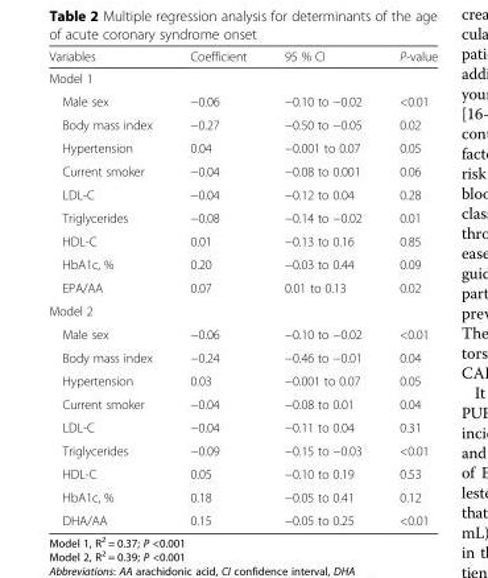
<table><thead><tr><td>Variables</td><td>Coefficient</td><td>95 % CI</td><td>P-value</td></tr></thead><tbody><tr><td colspan="4">Model 1</td></tr><tr><td>Male sex</td><td>−0.06</td><td>−0.10 to −0.02</td><td>&lt;0.01</td></tr><tr><td>Body mass index</td><td>−0.27</td><td>−0.50 to −0.05</td><td>0.02</td></tr><tr><td>Hypertension</td><td>0.04</td><td>−0.001 to 0.07</td><td>0.05</td></tr><tr><td>Current smoker</td><td>−0.04</td><td>−0.08 to 0.001</td><td>0.06</td></tr><tr><td>LDL-C</td><td>−0.04</td><td>−0.12 to 0.04</td><td>0.28</td></tr><tr><td>Triglycerides</td><td>−0.08</td><td>−0.14 to −0.02</td><td>0.01</td></tr><tr><td>HDL-C</td><td>0.01</td><td>−0.13 to 0.16</td><td>0.85</td></tr><tr><td>HbA1c, %</td><td>0.20</td><td>−0.03 to 0.44</td><td>0.09</td></tr><tr><td>EPA/AA</td><td>0.07</td><td>0.01 to 0.13</td><td>0.02</td></tr><tr><td colspan="4">Model 2</td></tr><tr><td>Male sex</td><td>−0.06</td><td>−0.10 to −0.02</td><td>&lt;0.01</td></tr><tr><td>Body mass index</td><td>−0.24</td><td>−0.46 to −0.01</td><td>0.04</td></tr><tr><td>Hypertension</td><td>0.03</td><td>−0.001 to 0.07</td><td>0.05</td></tr><tr><td>Current smoker</td><td>−0.04</td><td>−0.08 to 0.01</td><td>0.04</td></tr><tr><td>LDL-C</td><td>−0.04</td><td>−0.11 to 0.04</td><td>0.31</td></tr><tr><td>Triglycerides</td><td>−0.09</td><td>−0.15 to −0.03</td><td>&lt;0.01</td></tr><tr><td>HDL-C</td><td>0.05</td><td>−0.10 to 0.19</td><td>0.53</td></tr><tr><td>HbA1c, %</td><td>0.18</td><td>−0.05 to 0.41</td><td>0.12</td></tr><tr><td>DHA/AA</td><td>0.15</td><td>−0.05 to 0.25</td><td>&lt;0.01</td></tr></tbody></table>